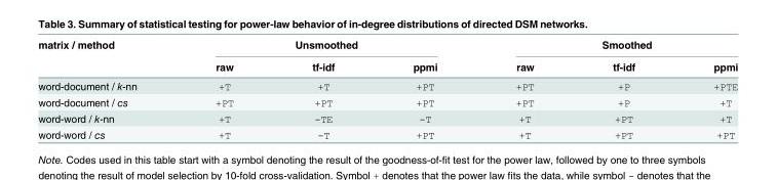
<table><thead><tr><td rowspan="2">matrix / method</td><td colspan="3">Unsmoothed</td><td colspan="3">Smoothed</td></tr><tr><td>raw</td><td>tf-idf</td><td>ppmi</td><td>raw</td><td>tf-idf</td><td>ppmi</td></tr></thead><tbody><tr><td>word-document / k-nn</td><td>+T</td><td>+T</td><td>+PT</td><td>+PT</td><td>+P</td><td>+PTE</td></tr><tr><td>word-document / cs</td><td>+PT</td><td>+PT</td><td>+PT</td><td>+PT</td><td>+P</td><td>+T</td></tr><tr><td>word-word / k-nn</td><td>+T</td><td>-TE</td><td>-T</td><td>+T</td><td>+PT</td><td>+T</td></tr><tr><td>word-word / cs</td><td>+T</td><td>-T</td><td>+PT</td><td>+T</td><td>+PT</td><td>+PT</td></tr></tbody></table>